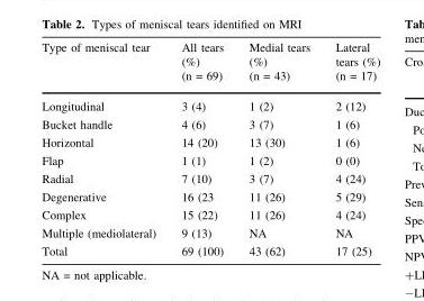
<table><thead><tr><td>Type of meniscal tear</td><td>All tears (%) (n = 69)</td><td>Medial tears (%) (n = 43)</td><td>Lateral tears (%) (n = 17)</td></tr></thead><tbody><tr><td>Longitudinal</td><td>3 (4)</td><td>1 (2)</td><td>2 (12)</td></tr><tr><td>Bucket handle</td><td>4 (6)</td><td>3 (7)</td><td>1 (6)</td></tr><tr><td>Horizontal</td><td>14 (20)</td><td>13 (30)</td><td>1 (6)</td></tr><tr><td>Flap</td><td>1 (1)</td><td>1 (2)</td><td>0 (0)</td></tr><tr><td>Radial</td><td>7 (10)</td><td>3 (7)</td><td>4 (24)</td></tr><tr><td>Degenerative</td><td>16 (23</td><td>11 (26)</td><td>5 (29)</td></tr><tr><td>Complex</td><td>15 (22)</td><td>11 (26)</td><td>4 (24)</td></tr><tr><td>Multiple (mediolateral)</td><td>9 (13)</td><td>NA</td><td>NA</td></tr><tr><td>Total</td><td>69 (100)</td><td>43 (62)</td><td>17 (25)</td></tr></tbody></table>